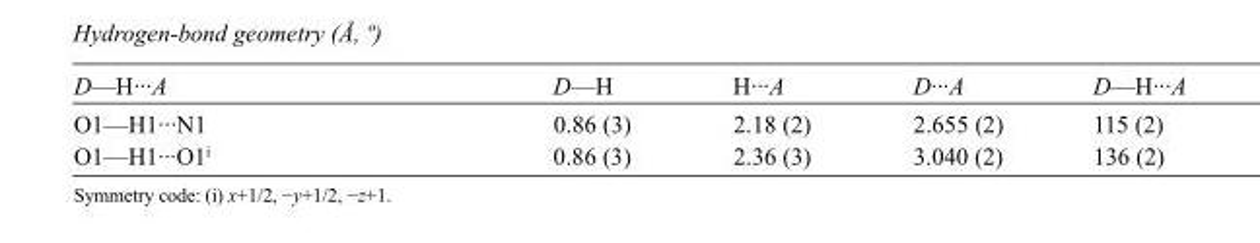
<table><tbody><tr><td>D—H···A</td><td>D—H</td><td>H···A</td><td>D···A</td><td>D—H···A</td></tr><tr><td>O1—H1···N1</td><td>0.86 (3)</td><td>2.18 (2)</td><td>2.655 (2)</td><td>115 (2)</td></tr><tr><td>O1—H1···O1<sup>i</sup></td><td>0.86 (3)</td><td>2.36 (3)</td><td>3.040 (2)</td><td>136 (2)</td></tr></tbody></table>